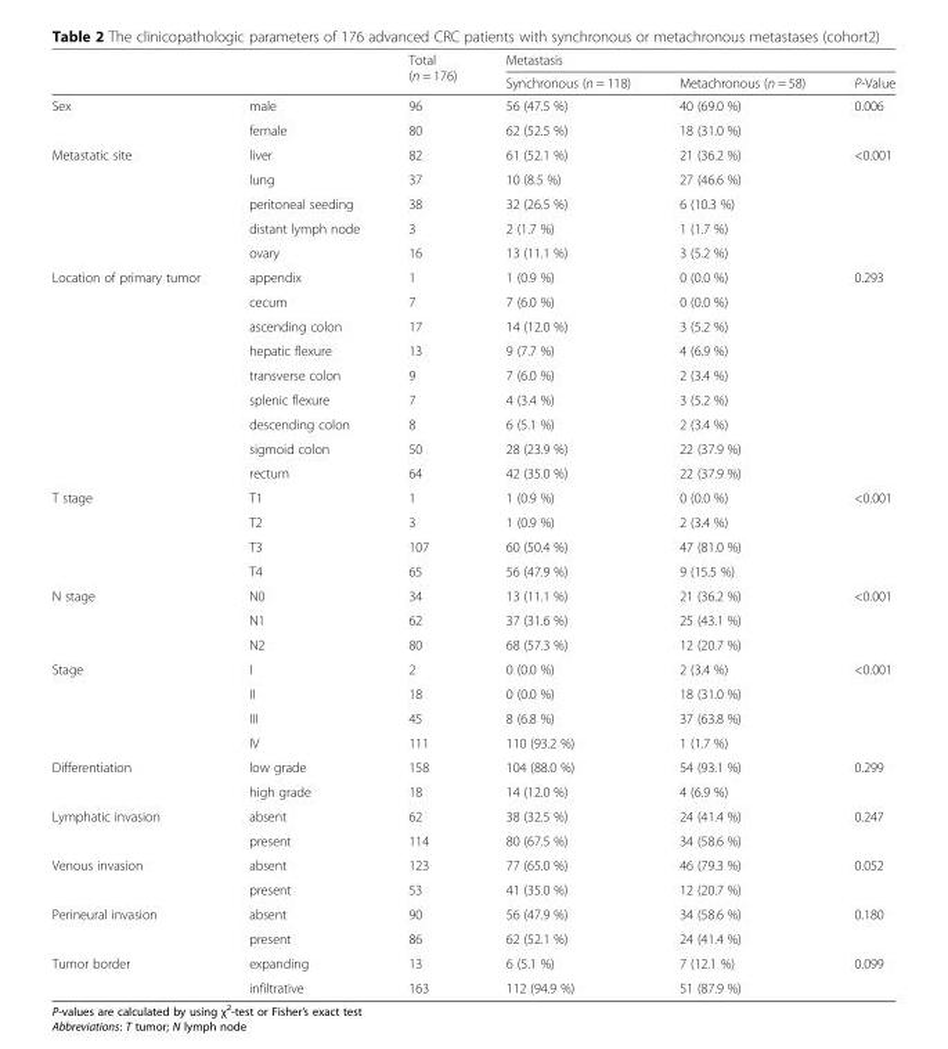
<table><thead><tr><td rowspan="2"></td><td rowspan="2"></td><td rowspan="2">Total (n = 176)</td><td colspan="3">Metastasis</td></tr><tr><td>Synchronous (n = 118)</td><td>Metachronous (n = 58)</td><td>P-Value</td></tr></thead><tbody><tr><td rowspan="2">Sex</td><td>male</td><td>96</td><td>56 (47.5 %)</td><td>40 (69.0 %)</td><td rowspan="2">0.006</td></tr><tr><td>female</td><td>80</td><td>62 (52.5 %)</td><td>18 (31.0 %)</td></tr><tr><td rowspan="5">Metastatic site</td><td>liver</td><td>82</td><td>61 (52.1 %)</td><td>21 (36.2 %)</td><td rowspan="5">&lt;0.001</td></tr><tr><td>lung</td><td>37</td><td>10 (8.5 %)</td><td>27 (46.6 %)</td></tr><tr><td>peritoneal seeding</td><td>38</td><td>32 (26.5 %)</td><td>6 (10.3 %)</td></tr><tr><td>distant lymph node</td><td>3</td><td>2 (1.7 %)</td><td>1 (1.7 %)</td></tr><tr><td>ovary</td><td>16</td><td>13 (11.1 %)</td><td>3 (5.2 %)</td></tr><tr><td rowspan="9">Location of primary tumor</td><td>appendix</td><td>1</td><td>1 (0.9 %)</td><td>0 (0.0 %)</td><td rowspan="9">0.293</td></tr><tr><td>cecum</td><td>7</td><td>7 (6.0 %)</td><td>0 (0.0 %)</td></tr><tr><td>ascending colon</td><td>17</td><td>14 (12.0 %)</td><td>3 (5.2 %)</td></tr><tr><td>hepatic flexure</td><td>13</td><td>9 (7.7 %)</td><td>4 (6.9 %)</td></tr><tr><td>transverse colon</td><td>9</td><td>7 (6.0 %)</td><td>2 (3.4 %)</td></tr><tr><td>splenic flexure</td><td>7</td><td>4 (3.4 %)</td><td>3 (5.2 %)</td></tr><tr><td>descending colon</td><td>8</td><td>6 (5.1 %)</td><td>2 (3.4 %)</td></tr><tr><td>sigmoid colon</td><td>50</td><td>28 (23.9 %)</td><td>22 (37.9 %)</td></tr><tr><td>rectum</td><td>64</td><td>42 (35.0 %)</td><td>22 (37.9 %)</td></tr><tr><td rowspan="4">T stage</td><td>T1</td><td>1</td><td>1 (0.9 %)</td><td>0 (0.0 %)</td><td rowspan="4">&lt;0.001</td></tr><tr><td>T2</td><td>3</td><td>1 (0.9 %)</td><td>2 (3.4 %)</td></tr><tr><td>T3</td><td>107</td><td>60 (50.4 %)</td><td>47 (81.0 %)</td></tr><tr><td>T4</td><td>65</td><td>56 (47.9 %)</td><td>9 (15.5 %)</td></tr><tr><td rowspan="3">N stage</td><td>N0</td><td>34</td><td>13 (11.1 %)</td><td>21 (36.2 %)</td><td rowspan="3">&lt;0.001</td></tr><tr><td>N1</td><td>62</td><td>37 (31.6 %)</td><td>25 (43.1 %)</td></tr><tr><td>N2</td><td>80</td><td>68 (57.3 %)</td><td>12 (20.7 %)</td></tr><tr><td rowspan="4">Stage</td><td>I</td><td>2</td><td>0 (0.0 %)</td><td>2 (3.4 %)</td><td rowspan="4">&lt;0.001</td></tr><tr><td>II</td><td>18</td><td>0 (0.0 %)</td><td>18 (31.0 %)</td></tr><tr><td>III</td><td>45</td><td>8 (6.8 %)</td><td>37 (63.8 %)</td></tr><tr><td>IV</td><td>111</td><td>110 (93.2 %)</td><td>1 (1.7 %)</td></tr><tr><td rowspan="2">Differentiation</td><td>low grade</td><td>158</td><td>104 (88.0 %)</td><td>54 (93.1 %)</td><td rowspan="2">0.299</td></tr><tr><td>high grade</td><td>18</td><td>14 (12.0 %)</td><td>4 (6.9 %)</td></tr><tr><td rowspan="2">Lymphatic invasion</td><td>absent</td><td>62</td><td>38 (32.5 %)</td><td>24 (41.4 %)</td><td rowspan="2">0.247</td></tr><tr><td>present</td><td>114</td><td>80 (67.5 %)</td><td>34 (58.6 %)</td></tr><tr><td rowspan="2">Venous invasion</td><td>absent</td><td>123</td><td>77 (65.0 %)</td><td>46 (79.3 %)</td><td rowspan="2">0.052</td></tr><tr><td>present</td><td>53</td><td>41 (35.0 %)</td><td>12 (20.7 %)</td></tr><tr><td rowspan="2">Perineural invasion</td><td>absent</td><td>90</td><td>56 (47.9 %)</td><td>34 (58.6 %)</td><td rowspan="2">0.180</td></tr><tr><td>present</td><td>86</td><td>62 (52.1 %)</td><td>24 (41.4 %)</td></tr><tr><td rowspan="2">Tumor border</td><td>expanding</td><td>13</td><td>6 (5.1 %)</td><td>7 (12.1 %)</td><td rowspan="2">0.099</td></tr><tr><td>infiltrative</td><td>163</td><td>112 (94.9 %)</td><td>51 (87.9 %)</td></tr></tbody></table>